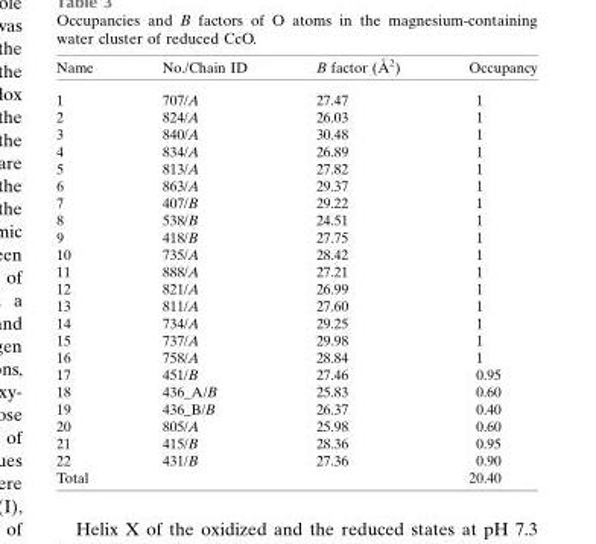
<table><thead><tr><td>Name</td><td>No./Chain ID</td><td>B factor (A˚ 2)</td><td>Occupancy</td></tr></thead><tbody><tr><td>1</td><td>707/A</td><td>27.47</td><td>1</td></tr><tr><td>2</td><td>824/A</td><td>26.03</td><td>1</td></tr><tr><td>3</td><td>840/A</td><td>30.48</td><td>1</td></tr><tr><td>4</td><td>834/A</td><td>26.89</td><td>1</td></tr><tr><td>5</td><td>813/A</td><td>27.82</td><td>1</td></tr><tr><td>6</td><td>863/A</td><td>29.37</td><td>1</td></tr><tr><td>7</td><td>407/B</td><td>29.22</td><td>1</td></tr><tr><td>8</td><td>538/B</td><td>24.51</td><td>1</td></tr><tr><td>9</td><td>418/B</td><td>27.75</td><td>1</td></tr><tr><td>10</td><td>735/A</td><td>28.42</td><td>1</td></tr><tr><td>11</td><td>888/A</td><td>27.21</td><td>1</td></tr><tr><td>12</td><td>821/A</td><td>26.99</td><td>1</td></tr><tr><td>13</td><td>811/A</td><td>27.60</td><td>1</td></tr><tr><td>14</td><td>734/A</td><td>29.25</td><td>1</td></tr><tr><td>15</td><td>737/A</td><td>29.98</td><td>1</td></tr><tr><td>16</td><td>758/A</td><td>28.84</td><td>1</td></tr><tr><td>17</td><td>451/B</td><td>27.46</td><td>0.95</td></tr><tr><td>18</td><td>436_A/B</td><td>25.83</td><td>0.60</td></tr><tr><td>19</td><td>436_B/B</td><td>26.37</td><td>0.40</td></tr><tr><td>20</td><td>805/A</td><td>25.98</td><td>0.60</td></tr><tr><td>21</td><td>415/B</td><td>28.36</td><td>0.95</td></tr><tr><td>22</td><td>431/B</td><td>27.36</td><td>0.90</td></tr><tr><td>Total</td><td></td><td></td><td>20.40</td></tr></tbody></table>